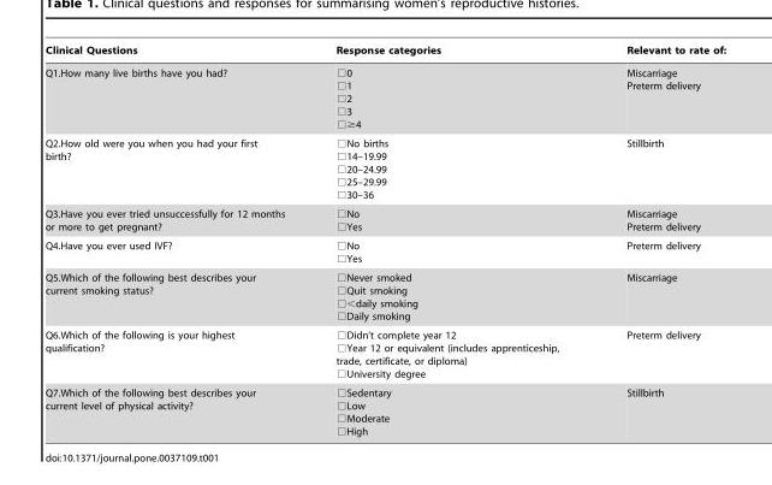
<table><thead><tr><td>Clinical Questions</td><td>Response categories</td><td>Relevant to rate of:</td></tr></thead><tbody><tr><td>Q1.How many live births have you had?</td><td>□0 □1 □2 □3 □≥4</td><td>Miscarriage Preterm delivery</td></tr><tr><td>Q2.How old were you when you had your first birth?</td><td>□No births □14–19.99 □20–24.99 □25–29.99 □30–36</td><td>Stillbirth</td></tr><tr><td>Q3.Have you ever tried unsuccessfully for 12 months or more to get pregnant?</td><td>□No □Yes</td><td>Miscarriage Preterm delivery</td></tr><tr><td>Q4.Have you ever used IVF?</td><td>□No □Yes</td><td>Preterm delivery</td></tr><tr><td>Q5.Which of the following best describes your current smoking status?</td><td>□Never smoked □Quit smoking □&lt;daily smoking □Daily smoking</td><td>Miscarriage</td></tr><tr><td>Q6.Which of the following is your highest qualification?</td><td>□Didn’t complete year 12 □Year 12 or equivalent (includes apprenticeship, trade, certificate, or diploma) □University degree</td><td>Preterm delivery</td></tr><tr><td>Q7.Which of the following best describes your current level of physical activity?</td><td>□Sedentary □Low □Moderate □High</td><td>Stillbirth</td></tr></tbody></table>